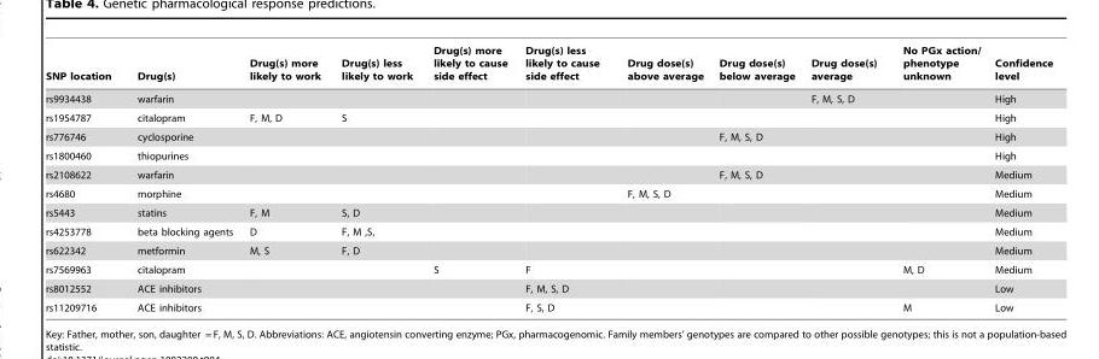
<table><thead><tr><td>SNP location</td><td>Drug(s)</td><td>Drug(s) more likely to work</td><td>Drug(s) less likely to work</td><td>Drug(s) more likely to cause side effect</td><td>Drug(s) less likely to cause side effect</td><td>Drug dose(s) above average</td><td>Drug dose(s) below average</td><td>Drug dose(s) average</td><td>No PGx action/ phenotype unknown</td><td>Confidence level</td></tr></thead><tbody><tr><td>rs9934438</td><td>warfarin</td><td></td><td></td><td></td><td></td><td></td><td></td><td>F, M, S, D</td><td></td><td>High</td></tr><tr><td>rs1954787</td><td>citalopram</td><td>F, M, D</td><td>S</td><td></td><td></td><td></td><td></td><td></td><td></td><td>High</td></tr><tr><td>rs776746</td><td>cyclosporine</td><td></td><td></td><td></td><td></td><td></td><td>F, M, S, D</td><td></td><td></td><td>High</td></tr><tr><td>rs1800460</td><td>thiopurines</td><td></td><td></td><td></td><td></td><td></td><td></td><td></td><td></td><td>High</td></tr><tr><td>rs2108622</td><td>warfarin</td><td></td><td></td><td></td><td></td><td></td><td>F, M, S, D</td><td></td><td></td><td>Medium</td></tr><tr><td>rs4680</td><td>morphine</td><td></td><td></td><td></td><td></td><td>F, M, S, D</td><td></td><td></td><td></td><td>Medium</td></tr><tr><td>rs5443</td><td>statins</td><td>F, M</td><td>S, D</td><td></td><td></td><td></td><td></td><td></td><td></td><td>Medium</td></tr><tr><td>rs4253778</td><td>beta blocking agents</td><td>D</td><td>F, M ,S,</td><td></td><td></td><td></td><td></td><td></td><td></td><td>Medium</td></tr><tr><td>rs622342</td><td>metformin</td><td>M, S</td><td>F, D</td><td></td><td></td><td></td><td></td><td></td><td></td><td>Medium</td></tr><tr><td>rs7569963</td><td>citalopram</td><td></td><td></td><td>S</td><td>F</td><td></td><td></td><td></td><td>M, D</td><td>Medium</td></tr><tr><td>rs8012552</td><td>ACE inhibitors</td><td></td><td></td><td></td><td>F, M, S, D</td><td></td><td></td><td></td><td></td><td>Low</td></tr><tr><td>rs11209716</td><td>ACE inhibitors</td><td></td><td></td><td></td><td>F, S, D</td><td></td><td></td><td></td><td>M</td><td>Low</td></tr></tbody></table>